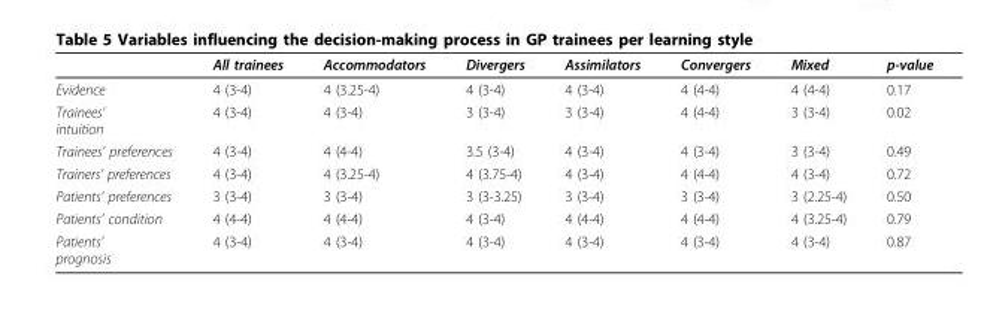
<table><thead><tr><td></td><td>All trainees</td><td>Accommodators</td><td>Divergers</td><td>Assimilators</td><td>Convergers</td><td>Mixed</td><td>p-value</td></tr></thead><tbody><tr><td>Evidence</td><td>4 (3-4)</td><td>4 (3.25-4)</td><td>4 (3-4)</td><td>4 (3-4)</td><td>4 (4-4)</td><td>4 (4-4)</td><td>0.17</td></tr><tr><td>Trainees’ intuition</td><td>4 (3-4)</td><td>4 (3-4)</td><td>3 (3-4)</td><td>3 (3-4)</td><td>4 (4-4)</td><td>3 (3-4)</td><td>0.02</td></tr><tr><td>Trainees’ preferences</td><td>4 (3-4)</td><td>4 (4-4)</td><td>3.5 (3-4)</td><td>4 (3-4)</td><td>4 (3-4)</td><td>3 (3-4)</td><td>0.49</td></tr><tr><td>Trainers’ preferences</td><td>4 (3-4)</td><td>4 (3.25-4)</td><td>4 (3.75-4)</td><td>4 (3-4)</td><td>4 (4-4)</td><td>4 (3-4)</td><td>0.72</td></tr><tr><td>Patients’ preferences</td><td>3 (3-4)</td><td>3 (3-4)</td><td>3 (3-3.25)</td><td>3 (3-4)</td><td>3 (3-4)</td><td>3 (2.25-4)</td><td>0.50</td></tr><tr><td>Patients’ condition</td><td>4 (4-4)</td><td>4 (4-4)</td><td>4 (3-4)</td><td>4 (4-4)</td><td>4 (4-4)</td><td>4 (3.25-4)</td><td>0.79</td></tr><tr><td>Patients’ prognosis</td><td>4 (3-4)</td><td>4 (3-4)</td><td>4 (3-4)</td><td>4 (3-4)</td><td>4 (3-4)</td><td>4 (3-4)</td><td>0.87</td></tr></tbody></table>